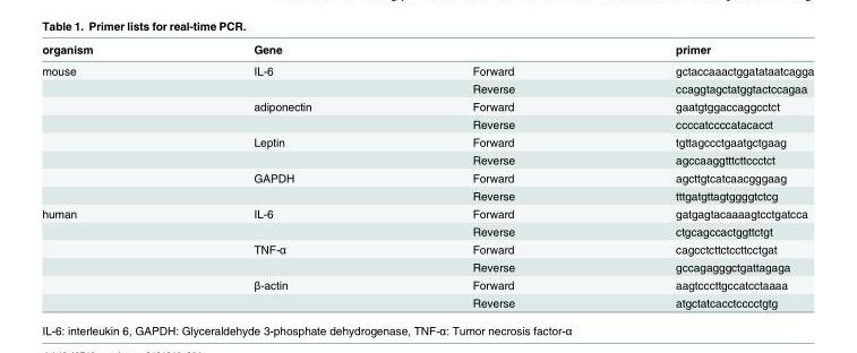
<table><thead><tr><td>organism</td><td>Gene</td><td></td><td>primer</td></tr></thead><tbody><tr><td rowspan="8">mouse</td><td>IL-6</td><td>Forward</td><td>gctaccaaactggatataatcagga</td></tr><tr><td></td><td>Reverse</td><td>ccaggtagctatggtactccagaa</td></tr><tr><td>adiponectin</td><td>Forward</td><td>gaatgtggaccaggcctct</td></tr><tr><td></td><td>Reverse</td><td>ccccatccccatacacct</td></tr><tr><td>Leptin</td><td>Forward</td><td>tgttagccctgaatgctgaag</td></tr><tr><td></td><td>Reverse</td><td>agccaaggtttcttccctct</td></tr><tr><td>GAPDH</td><td>Forward</td><td>agcttgtcatcaacgggaag</td></tr><tr><td></td><td>Reverse</td><td>tttgatgttagtggggtctcg</td></tr><tr><td rowspan="6">human</td><td>IL-6</td><td>Forward</td><td>gatgagtacaaaagtcctgatcca</td></tr><tr><td></td><td>Reverse</td><td>ctgcagccactggttctgt</td></tr><tr><td>TNF-α</td><td>Forward</td><td>cagcctcttctccttcctgat</td></tr><tr><td></td><td>Reverse</td><td>gccagagggctgattagaga</td></tr><tr><td>β-actin</td><td>Forward</td><td>aagtcccttgccatcctaaaa</td></tr><tr><td></td><td>Reverse</td><td>atgctatcacctcccctgtg</td></tr></tbody></table>